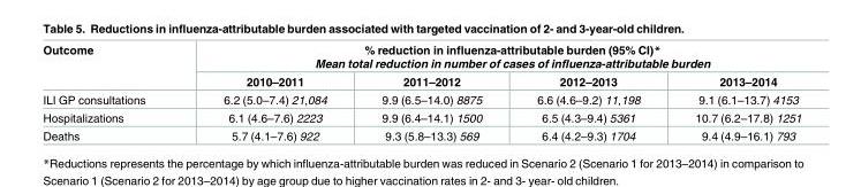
<table><thead><tr><td rowspan="2">Outcome</td><td colspan="4">% reduction in influenza-attributable burden (95% CI)* Mean total reduction in number of cases of influenza-attributable burden</td></tr><tr><td>2010–2011</td><td>2011–2012</td><td>2012–2013</td><td>2013–2014</td></tr></thead><tbody><tr><td>ILI GP consultations</td><td>6.2 (5.0–7.4) 21,084</td><td>9.9 (6.5–14.0) 8875</td><td>6.6 (4.6–9.2) 11,198</td><td>9.1 (6.1–13.7) 4153</td></tr><tr><td>Hospitalizations</td><td>6.1 (4.6–7.6) 2223</td><td>9.9 (6.4–14.1) 1500</td><td>6.5 (4.3–9.4) 5361</td><td>10.7 (6.2–17.8) 1251</td></tr><tr><td>Deaths</td><td>5.7 (4.1–7.6) 922</td><td>9.3 (5.8–13.3) 569</td><td>6.4 (4.2–9.3) 1704</td><td>9.4 (4.9–16.1) 793</td></tr></tbody></table>